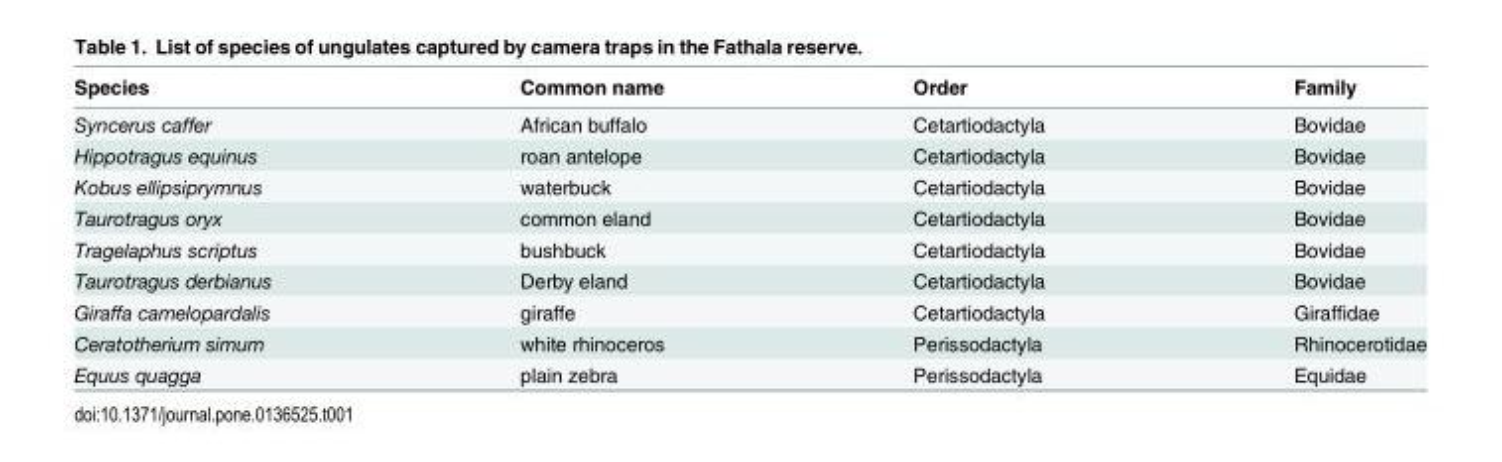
<table><thead><tr><td>Species</td><td>Common name</td><td>Order</td><td>Family</td></tr></thead><tbody><tr><td>Syncerus caffer</td><td>African buffalo</td><td>Cetartiodactyla</td><td>Bovidae</td></tr><tr><td>Hippotragus equinus</td><td>roan antelope</td><td>Cetartiodactyla</td><td>Bovidae</td></tr><tr><td>Kobus ellipsiprymnus</td><td>waterbuck</td><td>Cetartiodactyla</td><td>Bovidae</td></tr><tr><td>Taurotragus oryx</td><td>common eland</td><td>Cetartiodactyla</td><td>Bovidae</td></tr><tr><td>Tragelaphus scriptus</td><td>bushbuck</td><td>Cetartiodactyla</td><td>Bovidae</td></tr><tr><td>Taurotragus derbianus</td><td>Derby eland</td><td>Cetartiodactyla</td><td>Bovidae</td></tr><tr><td>Giraffa camelopardalis</td><td>giraffe</td><td>Cetartiodactyla</td><td>Giraffidae</td></tr><tr><td>Ceratotherium simum</td><td>white rhinoceros</td><td>Perissodactyla</td><td>Rhinocerotidae</td></tr><tr><td>Equus quagga</td><td>plain zebra</td><td>Perissodactyla</td><td>Equidae</td></tr></tbody></table>